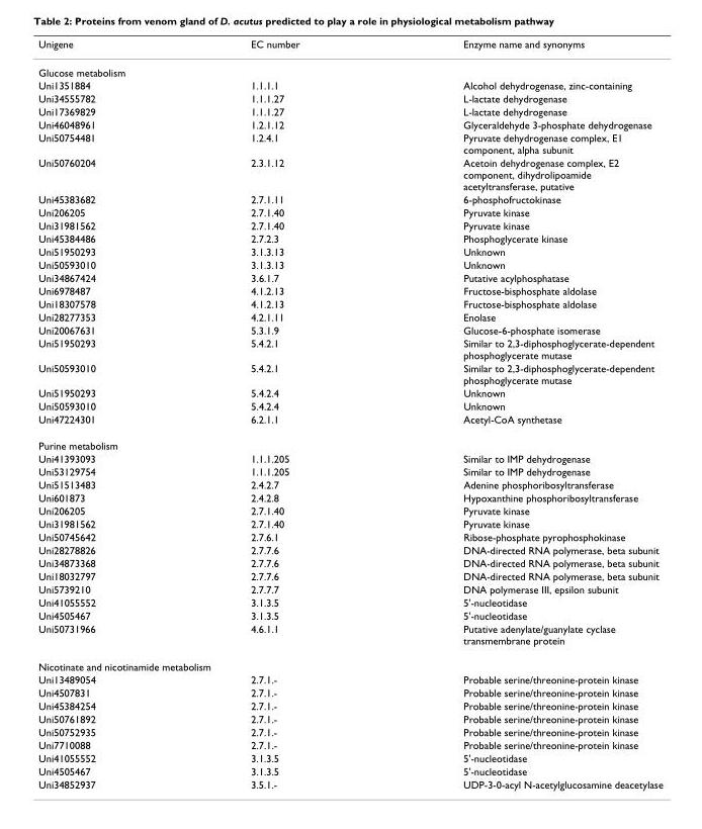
<table><thead><tr><td>Unigene</td><td>EC number</td><td>Enzyme name and synonyms</td></tr></thead><tbody><tr><td colspan="3">Glucose metabolism</td></tr><tr><td>Uni1351884</td><td>1.1.1.1</td><td>Alcohol dehydrogenase, zinc-containing</td></tr><tr><td>Uni34555782</td><td>1.1.1.27</td><td>L-lactate dehydrogenase</td></tr><tr><td>Uni17369829</td><td>1.1.1.27</td><td>L-lactate dehydrogenase</td></tr><tr><td>Uni46048961</td><td>1.2.1.12</td><td>Glyceraldehyde 3-phosphate dehydrogenase</td></tr><tr><td>Uni50754481</td><td>1.2.4.1</td><td>Pyruvate dehydrogenase complex, E1 component, alpha subunit</td></tr><tr><td>Uni50760204</td><td>2.3.1.12</td><td>Acetoin dehydrogenase complex, E2 component, dihydrolipoamide acetyltransferase, putative</td></tr><tr><td>Uni45383682</td><td>2.7.1.11</td><td>6-phosphofructokinase</td></tr><tr><td>Uni206205</td><td>2.7.1.40</td><td>Pyruvate kinase</td></tr><tr><td>Uni31981562</td><td>2.7.1.40</td><td>Pyruvate kinase</td></tr><tr><td>Uni45384486</td><td>2.7.2.3</td><td>Phosphoglycerate kinase</td></tr><tr><td>Uni51950293</td><td>3.1.3.13</td><td>Unknown</td></tr><tr><td>Uni50593010</td><td>3.1.3.13</td><td>Unknown</td></tr><tr><td>Uni34867424</td><td>3.6.1.7</td><td>Putative acylphosphatase</td></tr><tr><td>Uni6978487</td><td>4.1.2.13</td><td>Fructose-bisphosphate aldolase</td></tr><tr><td>Uni18307578</td><td>4.1.2.13</td><td>Fructose-bisphosphate aldolase</td></tr><tr><td>Uni28277353</td><td>4.2.1.11</td><td>Enolase</td></tr><tr><td>Uni20067631</td><td>5.3.1.9</td><td>Glucose-6-phosphate isomerase</td></tr><tr><td>Uni51950293</td><td>5.4.2.1</td><td>Similar to 2,3-diphosphoglycerate-dependent phosphoglycerate mutase</td></tr><tr><td>Uni50593010</td><td>5.4.2.1</td><td>Similar to 2,3-diphosphoglycerate-dependent phosphoglycerate mutase</td></tr><tr><td>Uni51950293</td><td>5.4.2.4</td><td>Unknown</td></tr><tr><td>Uni50593010</td><td>5.4.2.4</td><td>Unknown</td></tr><tr><td>Uni47224301</td><td>6.2.1.1</td><td>Acetyl-CoA synthetase</td></tr><tr><td colspan="3">Purine metabolism</td></tr><tr><td>Uni41393093</td><td>1.1.1.205</td><td>Similar to IMP dehydrogenase</td></tr><tr><td>Uni53129754</td><td>1.1.1.205</td><td>Similar to IMP dehydrogenase</td></tr><tr><td>Uni51513483</td><td>2.4.2.7</td><td>Adenine phosphoribosyltransferase</td></tr><tr><td>Uni601873</td><td>2.4.2.8</td><td>Hypoxanthine phosphoribosyltransferase</td></tr><tr><td>Uni206205</td><td>2.7.1.40</td><td>Pyruvate kinase</td></tr><tr><td>Uni31981562</td><td>2.7.1.40</td><td>Pyruvate kinase</td></tr><tr><td>Uni50745642</td><td>2.7.6.1</td><td>Ribose-phosphate pyrophosphokinase</td></tr><tr><td>Uni28278826</td><td>2.7.7.6</td><td>DNA-directed RNA polymerase, beta subunit</td></tr><tr><td>Uni34873368</td><td>2.7.7.6</td><td>DNA-directed RNA polymerase, beta subunit</td></tr><tr><td>Uni18032797</td><td>2.7.7.6</td><td>DNA-directed RNA polymerase, beta subunit</td></tr><tr><td>Uni5739210</td><td>2.7.7.7</td><td>DNA polymerase III, epsilon subunit</td></tr><tr><td>Uni41055552</td><td>3.1.3.5</td><td>5&#x27;-nucleotidase</td></tr><tr><td>Uni4505467</td><td>3.1.3.5</td><td>5&#x27;-nucleotidase</td></tr><tr><td>Uni50731966</td><td>4.6.1.1</td><td>Putative adenylate/guanylate cyclase transmembrane protein</td></tr><tr><td colspan="3">Nicotinate and nicotinamide metabolism</td></tr><tr><td>Uni13489054</td><td>2.7.1.-</td><td>Probable serine/threonine-protein kinase</td></tr><tr><td>Uni4507831</td><td>2.7.1.-</td><td>Probable serine/threonine-protein kinase</td></tr><tr><td>Uni45384254</td><td>2.7.1.-</td><td>Probable serine/threonine-protein kinase</td></tr><tr><td>Uni50761892</td><td>2.7.1.-</td><td>Probable serine/threonine-protein kinase</td></tr><tr><td>Uni50752935</td><td>2.7.1.-</td><td>Probable serine/threonine-protein kinase</td></tr><tr><td>Uni7710088</td><td>2.7.1.-</td><td>Probable serine/threonine-protein kinase</td></tr><tr><td>Uni41055552</td><td>3.1.3.5</td><td>5&#x27;-nucleotidase</td></tr><tr><td>Uni4505467</td><td>3.1.3.5</td><td>5&#x27;-nucleotidase</td></tr><tr><td>Uni34852937</td><td>3.5.1.-</td><td>UDP-3-0-acyl N-acetylglucosamine deacetylase</td></tr></tbody></table>